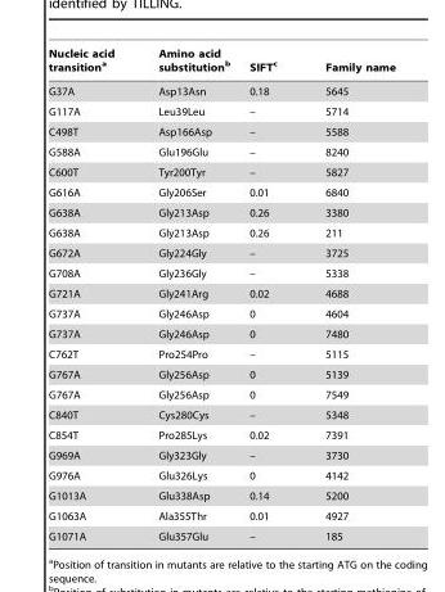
<table><thead><tr><td>Nucleic acid transition<sup>a</sup></td><td>Amino acid substitution<sup>b</sup></td><td>SIFT<sup>c</sup></td><td>Family name</td></tr></thead><tbody><tr><td>G37A</td><td>Asp13Asn</td><td>0.18</td><td>5645</td></tr><tr><td>G117A</td><td>Leu39Leu</td><td>–</td><td>5714</td></tr><tr><td>C498T</td><td>Asp166Asp</td><td>–</td><td>5588</td></tr><tr><td>G588A</td><td>Glu196Glu</td><td>–</td><td>8240</td></tr><tr><td>C600T</td><td>Tyr200Tyr</td><td>–</td><td>5827</td></tr><tr><td>G616A</td><td>Gly206Ser</td><td>0.01</td><td>6840</td></tr><tr><td>G638A</td><td>Gly213Asp</td><td>0.26</td><td>3380</td></tr><tr><td>G638A</td><td>Gly213Asp</td><td>0.26</td><td>211</td></tr><tr><td>G672A</td><td>Gly224Gly</td><td>–</td><td>3725</td></tr><tr><td>G708A</td><td>Gly236Gly</td><td>–</td><td>5338</td></tr><tr><td>G721A</td><td>Gly241Arg</td><td>0.02</td><td>4688</td></tr><tr><td>G737A</td><td>Gly246Asp</td><td>0</td><td>4604</td></tr><tr><td>G737A</td><td>Gly246Asp</td><td>0</td><td>7480</td></tr><tr><td>C762T</td><td>Pro254Pro</td><td>–</td><td>5115</td></tr><tr><td>G767A</td><td>Gly256Asp</td><td>0</td><td>5139</td></tr><tr><td>G767A</td><td>Gly256Asp</td><td>0</td><td>7549</td></tr><tr><td>C840T</td><td>Cys280Cys</td><td>–</td><td>5348</td></tr><tr><td>C854T</td><td>Pro285Lys</td><td>0.02</td><td>7391</td></tr><tr><td>G969A</td><td>Gly323Gly</td><td>–</td><td>3730</td></tr><tr><td>G976A</td><td>Glu326Lys</td><td>0</td><td>4142</td></tr><tr><td>G1013A</td><td>Glu338Asp</td><td>0.14</td><td>5200</td></tr><tr><td>G1063A</td><td>Ala355Thr</td><td>0.01</td><td>4927</td></tr><tr><td>G1071A</td><td>Glu357Glu</td><td>–</td><td>185</td></tr></tbody></table>